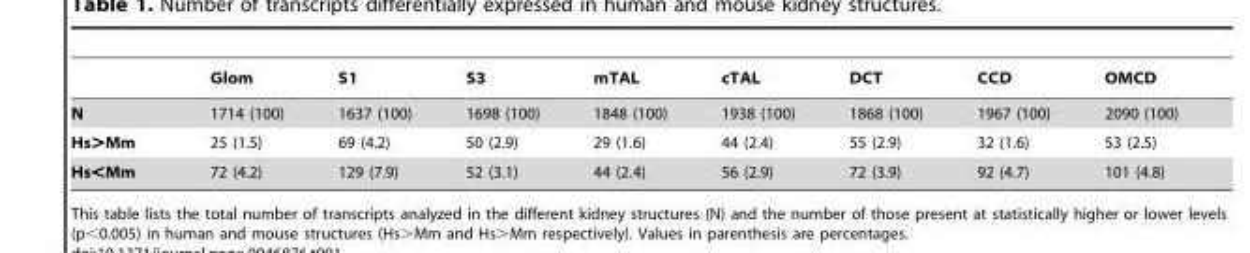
<table><thead><tr><td></td><td>Glom</td><td>S1</td><td>S3</td><td>mTAL</td><td>cTAL</td><td>DCT</td><td>CCD</td><td>OMCD</td></tr></thead><tbody><tr><td>N</td><td>1714 (100)</td><td>1637 (100)</td><td>1698 (100)</td><td>1848 (100)</td><td>1938 (100)</td><td>1868 (100)</td><td>1967 (100)</td><td>2090 (100)</td></tr><tr><td>Hs&gt;Mm</td><td>25 (1.5)</td><td>69 (4.2)</td><td>50 (2.9)</td><td>29 (1.6)</td><td>44 (2.4)</td><td>55 (2.9)</td><td>32 (1.6)</td><td>53 (2.5)</td></tr><tr><td>Hs&lt;Mm</td><td>72 (4.2)</td><td>129 (7.9)</td><td>52 (3.1)</td><td>44 (2.4)</td><td>56 (2.9)</td><td>72 (3.9)</td><td>92 (4.7)</td><td>101 (4.8)</td></tr></tbody></table>